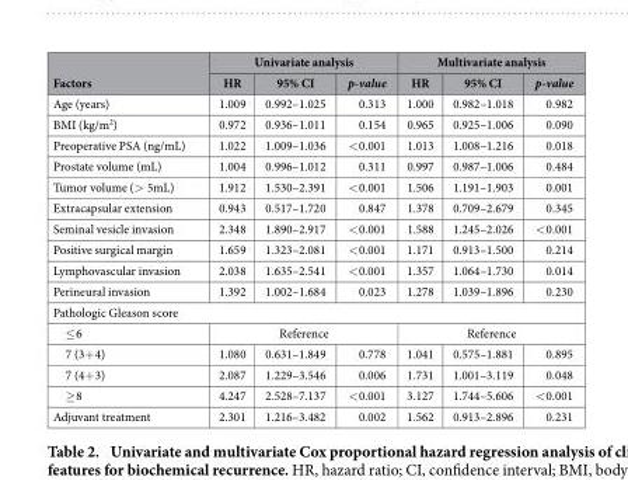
<table><thead><tr><td rowspan="2">Factors</td><td colspan="3">Univariate analysis</td><td colspan="3">Multivariate analysis</td></tr><tr><td>HR</td><td>95% CI</td><td>p-value</td><td>HR</td><td>95% CI</td><td>p-value</td></tr></thead><tbody><tr><td>Age (years)</td><td>1.009</td><td>0.992–1.025</td><td>0.313</td><td>1.000</td><td>0.982–1.018</td><td>0.982</td></tr><tr><td>BMI (kg/m<sup>2</sup>)</td><td>0.972</td><td>0.936–1.011</td><td>0.154</td><td>0.965</td><td>0.925–1.006</td><td>0.090</td></tr><tr><td>Preoperative PSA (ng/mL)</td><td>1.022</td><td>1.009–1.036</td><td>&lt; 0.001</td><td>1.013</td><td>1.008–1.216</td><td>0.018</td></tr><tr><td>Prostate volume (mL)</td><td>1.004</td><td>0.996–1.012</td><td>0.311</td><td>0.997</td><td>0.987–1.006</td><td>0.484</td></tr><tr><td>Tumor volume (&gt; 5mL)</td><td>1.912</td><td>1.530–2.391</td><td>&lt; 0.001</td><td>1.506</td><td>1.191–1.903</td><td>0.001</td></tr><tr><td>Extracapsular extension</td><td>0.943</td><td>0.517–1.720</td><td>0.847</td><td>1.378</td><td>0.709–2.679</td><td>0.345</td></tr><tr><td>Seminal vesicle invasion</td><td>2.348</td><td>1.890–2.917</td><td>&lt; 0.001</td><td>1.588</td><td>1.245–2.026</td><td>&lt; 0.001</td></tr><tr><td>Positive surgical margin</td><td>1.659</td><td>1.323–2.081</td><td>&lt; 0.001</td><td>1.171</td><td>0.913–1.500</td><td>0.214</td></tr><tr><td>Lymphovascular invasion</td><td>2.038</td><td>1.635–2.541</td><td>&lt; 0.001</td><td>1.357</td><td>1.064–1.730</td><td>0.014</td></tr><tr><td>Perineural invasion</td><td>1.392</td><td>1.002–1.684</td><td>0.023</td><td>1.278</td><td>1.039–1.896</td><td>0.230</td></tr><tr><td colspan="7">Pathologic Gleason score</td></tr><tr><td>≤ 6</td><td colspan="3">Reference</td><td colspan="3">Reference</td></tr><tr><td>7 (3+ 4)</td><td>1.080</td><td>0.631–1.849</td><td>0.778</td><td>1.041</td><td>0.575–1.881</td><td>0.895</td></tr><tr><td>7 (4+ 3)</td><td>2.087</td><td>1.229–3.546</td><td>0.006</td><td>1.731</td><td>1.001–3.119</td><td>0.048</td></tr><tr><td>≥ 8</td><td>4.247</td><td>2.528–7.137</td><td>&lt; 0.001</td><td>3.127</td><td>1.744–5.606</td><td>&lt; 0.001</td></tr><tr><td>Adjuvant treatment</td><td>2.301</td><td>1.216–3.482</td><td>0.002</td><td>1.562</td><td>0.913–2.896</td><td>0.231</td></tr></tbody></table>